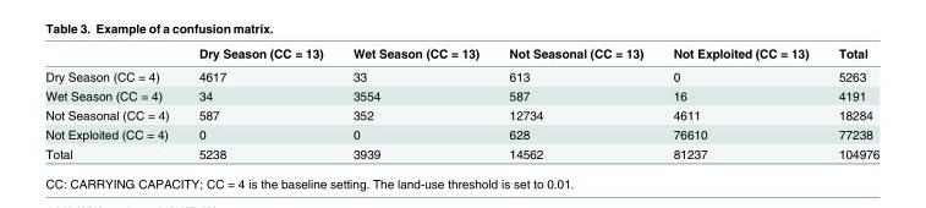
<table><thead><tr><td></td><td>Dry Season (CC = 13)</td><td>Wet Season (CC = 13)</td><td>Not Seasonal (CC = 13)</td><td>Not Exploited (CC = 13)</td><td>Total</td></tr></thead><tbody><tr><td>Dry Season (CC = 4)</td><td>4617</td><td>33</td><td>613</td><td>0</td><td>5263</td></tr><tr><td>Wet Season (CC = 4)</td><td>34</td><td>3554</td><td>587</td><td>16</td><td>4191</td></tr><tr><td>Not Seasonal (CC = 4)</td><td>587</td><td>352</td><td>12734</td><td>4611</td><td>18284</td></tr><tr><td>Not Exploited (CC = 4)</td><td>0</td><td>0</td><td>628</td><td>76610</td><td>77238</td></tr><tr><td>Total</td><td>5238</td><td>3939</td><td>14562</td><td>81237</td><td>104976</td></tr></tbody></table>